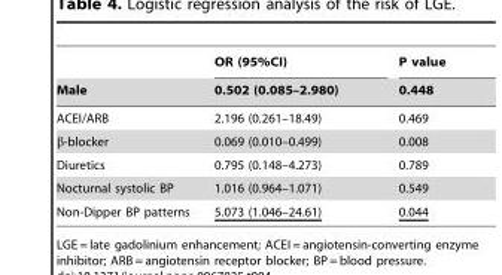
<table><thead><tr><td rowspan="2">Male</td><td rowspan="2">OR (95%CI) 0.502 (0.085–2.980)</td><td rowspan="2">P value 0.448</td></tr><tr></tr></thead><tbody><tr><td>ACEI/ARB</td><td>2.196 (0.261–18.49)</td><td>0.469</td></tr><tr><td>β-blocker</td><td>0.069 (0.010–0.499)</td><td>0.008</td></tr><tr><td>Diuretics</td><td>0.795 (0.148–4.273)</td><td>0.789</td></tr><tr><td>Nocturnal systolic BP</td><td>1.016 (0.964–1.071)</td><td>0.549</td></tr><tr><td>Non-Dipper BP patterns</td><td>5.073 (1.046–24.61)</td><td>0.044</td></tr></tbody></table>